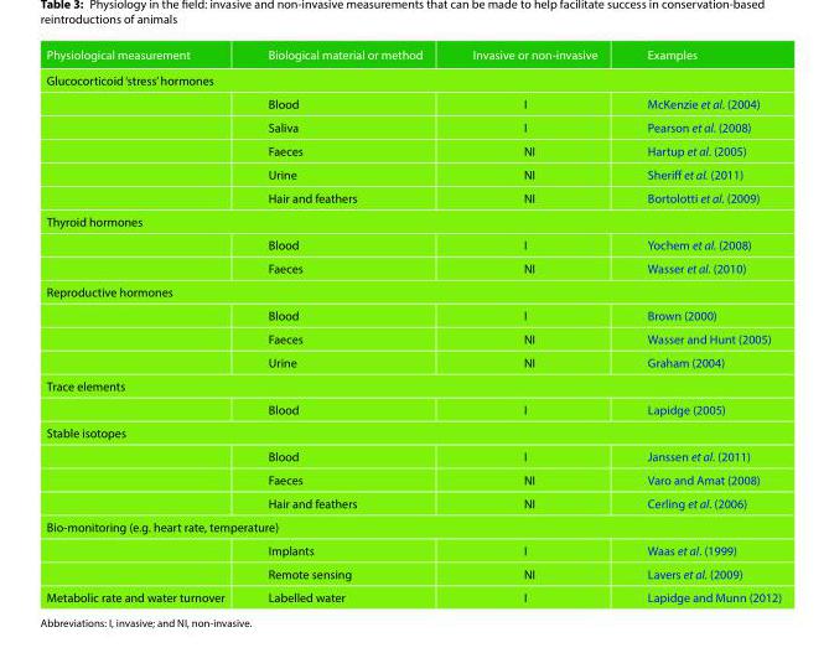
<table><thead><tr><td>Physiological measurement</td><td>Biological material or method</td><td>Invasive or non-invasive</td><td>Examples</td></tr></thead><tbody><tr><td colspan="4">Glucocorticoid ‘stress’ hormones</td></tr><tr><td></td><td>Blood</td><td>I</td><td>McKenzie et al. (2004)</td></tr><tr><td></td><td>Saliva</td><td>I</td><td>Pearson et al. (2008)</td></tr><tr><td></td><td>Faeces</td><td>NI</td><td>Hartup et al. (2005)</td></tr><tr><td></td><td>Urine</td><td>NI</td><td>Sheriff et al. (2011)</td></tr><tr><td></td><td>Hair and feathers</td><td>NI</td><td>Bortolotti et al. (2009)</td></tr><tr><td colspan="4">Thyroid hormones</td></tr><tr><td></td><td>Blood</td><td>I</td><td>Yochem et al. (2008)</td></tr><tr><td></td><td>Faeces</td><td>NI</td><td>Wasser et al. (2010)</td></tr><tr><td colspan="4">Reproductive hormones</td></tr><tr><td></td><td>Blood</td><td>I</td><td>Brown (2000)</td></tr><tr><td></td><td>Faeces</td><td>NI</td><td>Wasser and Hunt (2005)</td></tr><tr><td></td><td>Urine</td><td>NI</td><td>Graham (2004)</td></tr><tr><td colspan="4">Trace elements</td></tr><tr><td></td><td>Blood</td><td>I</td><td>Lapidge (2005)</td></tr><tr><td colspan="4">Stable isotopes</td></tr><tr><td></td><td>Blood</td><td>I</td><td>Janssen et al. (2011)</td></tr><tr><td></td><td>Faeces</td><td>NI</td><td>Varo and Amat (2008)</td></tr><tr><td></td><td>Hair and feathers</td><td>NI</td><td>Cerling et al. (2006)</td></tr><tr><td colspan="4">Bio-monitoring (e.g. heart rate, temperature)</td></tr><tr><td></td><td>Implants</td><td>I</td><td>Waas et al. (1999)</td></tr><tr><td></td><td>Remote sensing</td><td>NI</td><td>Lavers et al. (2009)</td></tr><tr><td>Metabolic rate and water turnover</td><td>Labelled water</td><td>I</td><td>Lapidge and Munn (2012)</td></tr></tbody></table>